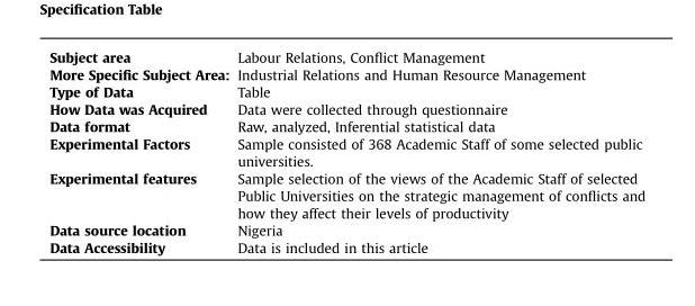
<table><tbody><tr><td>Subject area</td><td>Labour Relations, Conflict Management</td></tr><tr><td>More Specific Subject Area:</td><td>Industrial Relations and Human Resource Management</td></tr><tr><td>Type of Data</td><td>Table</td></tr><tr><td>How Data was Acquired</td><td>Data were collected through questionnaire</td></tr><tr><td>Data format</td><td>Raw, analyzed, Inferential statistical data</td></tr><tr><td>Experimental Factors</td><td>Sample consisted of 368 Academic Staff of some selected public universities.</td></tr><tr><td>Experimental features</td><td>Sample selection of the views of the Academic Staff of selected Public Universities on the strategic management of conflicts and how they affect their levels of productivity</td></tr><tr><td>Data source location</td><td>Nigeria</td></tr><tr><td>Data Accessibility</td><td>Data is included in this article</td></tr></tbody></table>